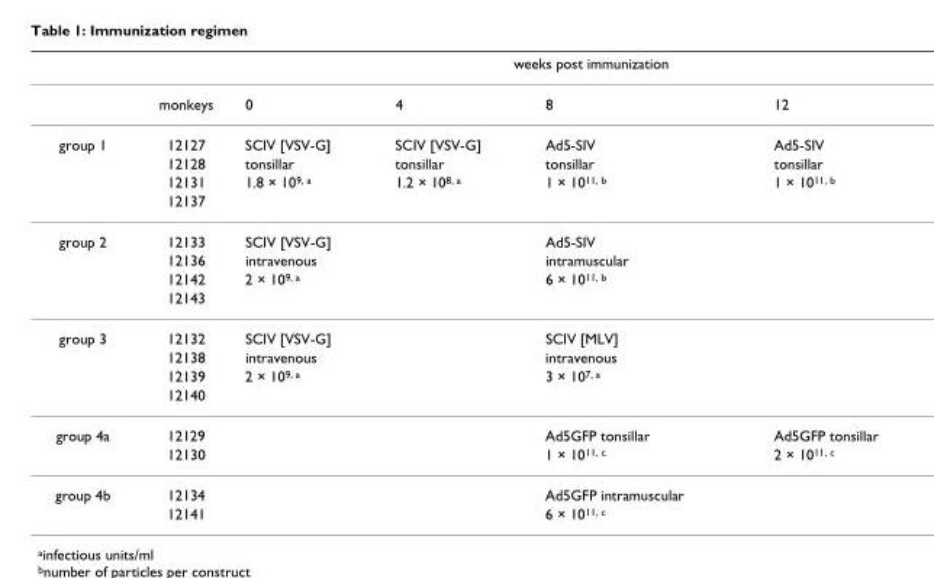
<table><thead><tr><td rowspan="2"></td><td rowspan="2">monkeys</td><td colspan="4">weeks post immunization</td></tr><tr><td>0</td><td>4</td><td>8</td><td>12</td></tr></thead><tbody><tr><td rowspan="4">group 1</td><td>12127</td><td>SCIV [VSV-G]</td><td>SCIV [VSV-G]</td><td>Ad5-SIV</td><td>Ad5-SIV</td></tr><tr><td>12128</td><td>tonsillar</td><td>tonsillar</td><td>tonsillar</td><td>tonsillar</td></tr><tr><td>12131</td><td>1.8 × 10<sup>9, a</sup></td><td>1.2 × 10<sup>8, a</sup></td><td>1 × 10<sup>11, b</sup></td><td>1 × 10<sup>11, b</sup></td></tr><tr><td>12137</td><td></td><td></td><td></td><td></td></tr><tr><td rowspan="4">group 2</td><td>12133</td><td>SCIV [VSV-G]</td><td></td><td>Ad5-SIV</td><td></td></tr><tr><td>12136</td><td>intravenous</td><td></td><td>intramuscular</td><td></td></tr><tr><td>12142</td><td>2 × 10<sup>9, a</sup></td><td></td><td>6 × 10<sup>11, b</sup></td><td></td></tr><tr><td>12143</td><td></td><td></td><td></td><td></td></tr><tr><td rowspan="4">group 3</td><td>12132</td><td>SCIV [VSV-G]</td><td></td><td>SCIV [MLV]</td><td></td></tr><tr><td>12138</td><td>intravenous</td><td></td><td>intravenous</td><td></td></tr><tr><td>12139</td><td>2 × 10<sup>9, a</sup></td><td></td><td>3 × 10<sup>7, a</sup></td><td></td></tr><tr><td>12140</td><td></td><td></td><td></td><td></td></tr><tr><td rowspan="2">group 4a</td><td>12129</td><td></td><td></td><td>Ad5GFP tonsillar</td><td>Ad5GFP tonsillar</td></tr><tr><td>12130</td><td></td><td></td><td>1 × 10<sup>11, c</sup></td><td>2 × 10<sup>11, c</sup></td></tr><tr><td rowspan="2">group 4b</td><td>12134</td><td></td><td></td><td>Ad5GFP intramuscular</td><td></td></tr><tr><td>12141</td><td></td><td></td><td>6 × 10<sup>11, c</sup></td><td></td></tr></tbody></table>